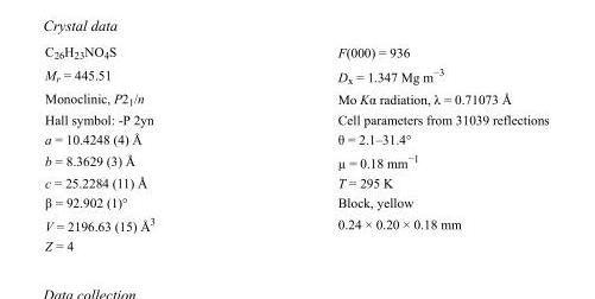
<table><tbody><tr><td>C<sub>26</sub>H<sub>23</sub>NO<sub>4</sub>S</td><td>F(000) = 936</td></tr><tr><td>M<sub>r</sub> = 445.51</td><td>D<sub>x</sub> = 1.347 Mg m<sup>−3</sup></td></tr><tr><td>Monoclinic, P2<sub>1</sub>/n</td><td>Mo Kα radiation, λ = 0.71073 Å</td></tr><tr><td>Hall symbol: -P 2yn</td><td>Cell parameters from 31039 reflections</td></tr><tr><td>a = 10.4248 (4) Å</td><td>θ = 2.1–31.4°</td></tr><tr><td>b = 8.3629 (3) Å</td><td>µ = 0.18 mm<sup>−1</sup></td></tr><tr><td>c = 25.2284 (11) Å</td><td>T = 295 K</td></tr><tr><td>β = 92.902 (1)°</td><td>Block, yellow</td></tr><tr><td>V = 2196.63 (15) Å<sup>3</sup></td><td>0.24 × 0.20 × 0.18 mm</td></tr><tr><td>Z = 4</td><td></td></tr></tbody></table>